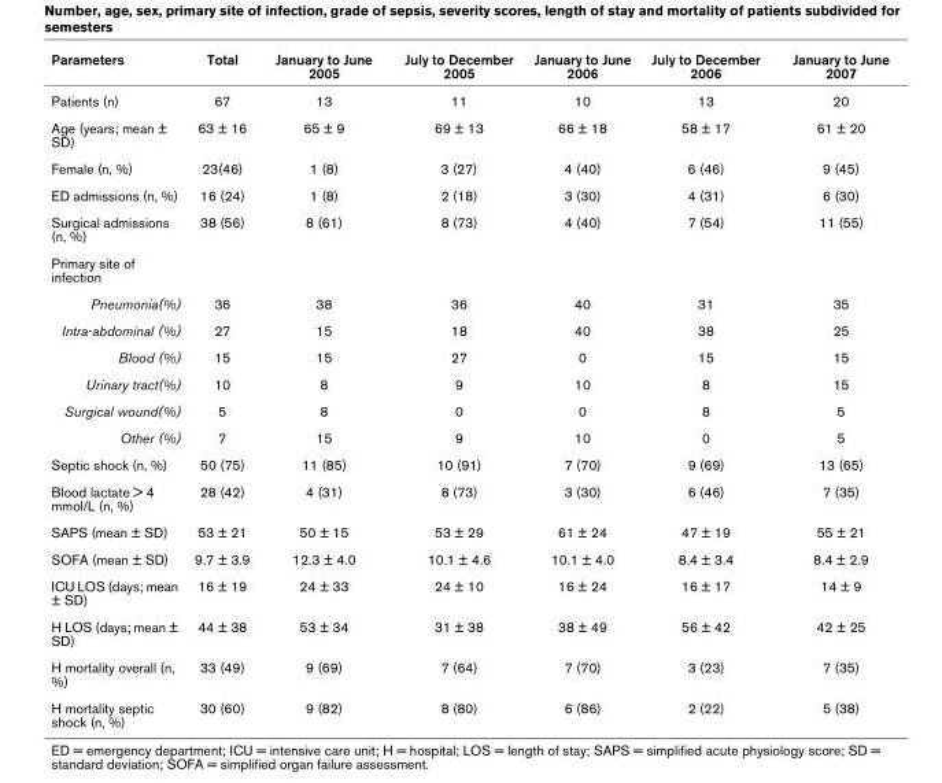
<table><thead><tr><td>Parameters</td><td>Total</td><td>January to June 2005</td><td>July to December 2005</td><td>January to June 2006</td><td>July to December 2006</td><td>January to June 2007</td></tr></thead><tbody><tr><td>Patients (n)</td><td>67</td><td>13</td><td>11</td><td>10</td><td>13</td><td>20</td></tr><tr><td>Age (years; mean ± SD)</td><td>63 ± 16</td><td>65 ± 9</td><td>69 ± 13</td><td>66 ± 18</td><td>58 ± 17</td><td>61 ± 20</td></tr><tr><td>Female (n, %)</td><td>23(46)</td><td>1 (8)</td><td>3 (27)</td><td>4 (40)</td><td>6 (46)</td><td>9 (45)</td></tr><tr><td>ED admissions (n, %)</td><td>16 (24)</td><td>1 (8)</td><td>2 (18)</td><td>3 (30)</td><td>4 (31)</td><td>6 (30)</td></tr><tr><td>Surgical admissions (n, %)</td><td>38 (56)</td><td>8 (61)</td><td>8 (73)</td><td>4 (40)</td><td>7 (54)</td><td>11 (55)</td></tr><tr><td colspan="7">Primary site of infection</td></tr><tr><td>Pneumonia(%)</td><td>36</td><td>38</td><td>36</td><td>40</td><td>31</td><td>35</td></tr><tr><td>Intra-abdominal (%)</td><td>27</td><td>15</td><td>18</td><td>40</td><td>38</td><td>25</td></tr><tr><td>Blood (%)</td><td>15</td><td>15</td><td>27</td><td>0</td><td>15</td><td>15</td></tr><tr><td>Urinary tract(%)</td><td>10</td><td>8</td><td>9</td><td>10</td><td>8</td><td>15</td></tr><tr><td>Surgical wound(%)</td><td>5</td><td>8</td><td>0</td><td>0</td><td>8</td><td>5</td></tr><tr><td>Other (%)</td><td>7</td><td>15</td><td>9</td><td>10</td><td>0</td><td>5</td></tr><tr><td>Septic shock (n, %)</td><td>50 (75)</td><td>11 (85)</td><td>10 (91)</td><td>7 (70)</td><td>9 (69)</td><td>13 (65)</td></tr><tr><td>Blood lactate &gt; 4 mmol/L (n, %)</td><td>28 (42)</td><td>4 (31)</td><td>8 (73)</td><td>3 (30)</td><td>6 (46)</td><td>7 (35)</td></tr><tr><td>SAPS (mean ± SD)</td><td>53 ± 21</td><td>50 ± 15</td><td>53 ± 29</td><td>61 ± 24</td><td>47 ± 19</td><td>55 ± 21</td></tr><tr><td>SOFA (mean ± SD)</td><td>9.7 ± 3.9</td><td>12.3 ± 4.0</td><td>10.1 ± 4.6</td><td>10.1 ± 4.0</td><td>8.4 ± 3.4</td><td>8.4 ± 2.9</td></tr><tr><td>ICU LOS (days; mean ± SD)</td><td>16 ± 19</td><td>24 ± 33</td><td>24 ± 10</td><td>16 ± 24</td><td>16 ± 17</td><td>14 ± 9</td></tr><tr><td>H LOS (days; mean ± SD)</td><td>44 ± 38</td><td>53 ± 34</td><td>31 ± 38</td><td>38 ± 49</td><td>56 ± 42</td><td>42 ± 25</td></tr><tr><td>H mortality overall (n, %)</td><td>33 (49)</td><td>9 (69)</td><td>7 (64)</td><td>7 (70)</td><td>3 (23)</td><td>7 (35)</td></tr><tr><td>H mortality septic shock (n, %)</td><td>30 (60)</td><td>9 (82)</td><td>8 (80)</td><td>6 (86)</td><td>2 (22)</td><td>5 (38)</td></tr></tbody></table>